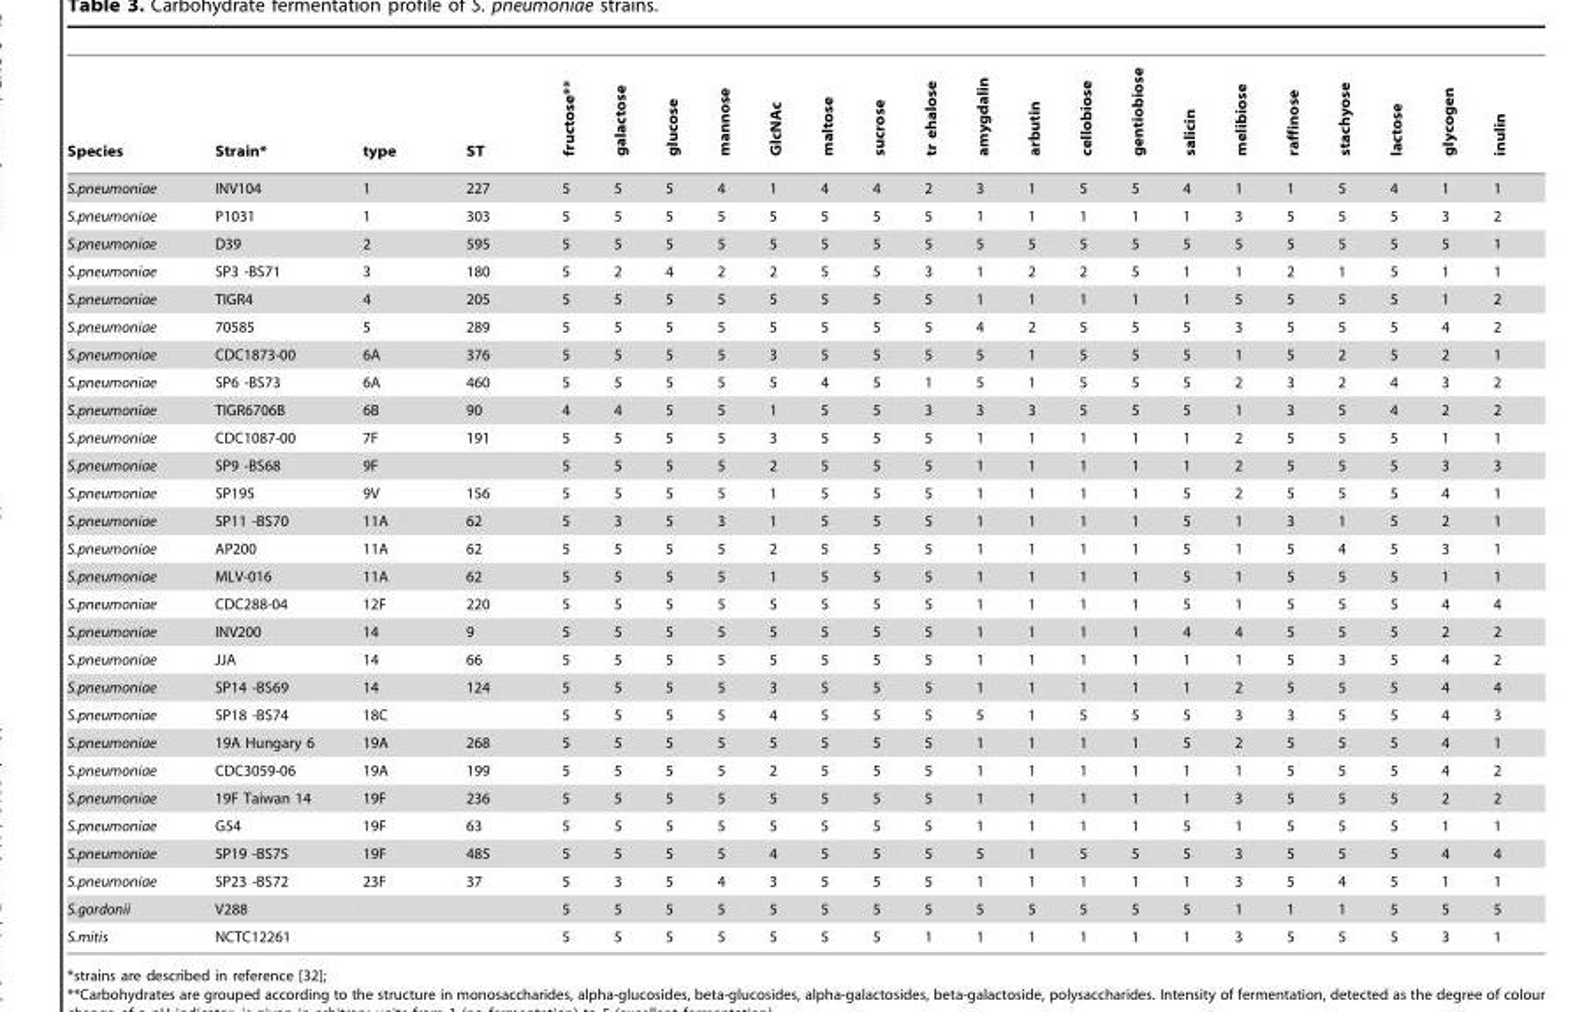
<table><thead><tr><td>Species</td><td>Strain*</td><td>type</td><td>ST</td><td>fructose**</td><td>galactose</td><td>glucose</td><td>mannose</td><td>GlcNAc</td><td>maltose</td><td>sucrose</td><td>tr ehalose</td><td>amygdalin</td><td>arbutin</td><td>cellobiose</td><td>gentiobiose</td><td>salicin</td><td>melibiose</td><td>raffinose</td><td>stachyose</td><td>lactose</td><td>glycogen</td><td>inulin</td></tr></thead><tbody><tr><td>S.pneumoniae</td><td>INV104</td><td>1</td><td>227</td><td>5</td><td>5</td><td>5</td><td>4</td><td>1</td><td>4</td><td>4</td><td>2</td><td>3</td><td>1</td><td>5</td><td>5</td><td>4</td><td>1</td><td>1</td><td>5</td><td>4</td><td>1</td><td>1</td></tr><tr><td>S.pneumoniae</td><td>P1031</td><td>1</td><td>303</td><td>5</td><td>5</td><td>5</td><td>5</td><td>5</td><td>5</td><td>5</td><td>5</td><td>1</td><td>1</td><td>1</td><td>1</td><td>1</td><td>3</td><td>5</td><td>5</td><td>5</td><td>3</td><td>2</td></tr><tr><td>S.pneumoniae</td><td>D39</td><td>2</td><td>595</td><td>5</td><td>5</td><td>5</td><td>5</td><td>5</td><td>5</td><td>5</td><td>5</td><td>5</td><td>5</td><td>5</td><td>5</td><td>5</td><td>5</td><td>5</td><td>5</td><td>5</td><td>5</td><td>1</td></tr><tr><td>S.pneumoniae</td><td>SP3 -BS71</td><td>3</td><td>180</td><td>5</td><td>2</td><td>4</td><td>2</td><td>2</td><td>5</td><td>5</td><td>3</td><td>1</td><td>2</td><td>2</td><td>5</td><td>1</td><td>1</td><td>2</td><td>1</td><td>5</td><td>1</td><td>1</td></tr><tr><td>S.pneumoniae</td><td>TIGR4</td><td>4</td><td>205</td><td>5</td><td>5</td><td>5</td><td>5</td><td>5</td><td>5</td><td>5</td><td>5</td><td>1</td><td>1</td><td>1</td><td>1</td><td>1</td><td>5</td><td>5</td><td>5</td><td>5</td><td>1</td><td>2</td></tr><tr><td>S.pneumoniae</td><td>70585</td><td>5</td><td>289</td><td>5</td><td>5</td><td>5</td><td>5</td><td>5</td><td>5</td><td>5</td><td>5</td><td>4</td><td>2</td><td>5</td><td>5</td><td>5</td><td>3</td><td>5</td><td>5</td><td>5</td><td>4</td><td>2</td></tr><tr><td>S.pneumoniae</td><td>CDC1873-00</td><td>6A</td><td>376</td><td>5</td><td>5</td><td>5</td><td>5</td><td>3</td><td>5</td><td>5</td><td>5</td><td>5</td><td>1</td><td>5</td><td>5</td><td>5</td><td>1</td><td>5</td><td>2</td><td>5</td><td>2</td><td>1</td></tr><tr><td>S.pneumoniae</td><td>SP6 -BS73</td><td>6A</td><td>460</td><td>5</td><td>5</td><td>5</td><td>5</td><td>5</td><td>4</td><td>5</td><td>1</td><td>5</td><td>1</td><td>5</td><td>5</td><td>5</td><td>2</td><td>3</td><td>2</td><td>4</td><td>3</td><td>2</td></tr><tr><td>S.pneumoniae</td><td>TIGR6706B</td><td>6B</td><td>90</td><td>4</td><td>4</td><td>5</td><td>5</td><td>1</td><td>5</td><td>5</td><td>3</td><td>3</td><td>3</td><td>5</td><td>5</td><td>5</td><td>1</td><td>3</td><td>5</td><td>4</td><td>2</td><td>2</td></tr><tr><td>S.pneumoniae</td><td>CDC1087-00</td><td>7F</td><td>191</td><td>5</td><td>5</td><td>5</td><td>5</td><td>3</td><td>5</td><td>5</td><td>5</td><td>1</td><td>1</td><td>1</td><td>1</td><td>1</td><td>2</td><td>5</td><td>5</td><td>5</td><td>1</td><td>1</td></tr><tr><td>S.pneumoniae</td><td>SP9 -BS68</td><td>9F</td><td></td><td>5</td><td>5</td><td>5</td><td>5</td><td>2</td><td>5</td><td>5</td><td>5</td><td>1</td><td>1</td><td>1</td><td>1</td><td>1</td><td>2</td><td>5</td><td>5</td><td>5</td><td>3</td><td>3</td></tr><tr><td>S.pneumoniae</td><td>SP195</td><td>9V</td><td>156</td><td>5</td><td>5</td><td>5</td><td>5</td><td>1</td><td>5</td><td>5</td><td>5</td><td>1</td><td>1</td><td>1</td><td>1</td><td>5</td><td>2</td><td>5</td><td>5</td><td>5</td><td>4</td><td>1</td></tr><tr><td>S.pneumoniae</td><td>SP11 -BS70</td><td>11A</td><td>62</td><td>5</td><td>3</td><td>5</td><td>3</td><td>1</td><td>5</td><td>5</td><td>5</td><td>1</td><td>1</td><td>1</td><td>1</td><td>5</td><td>1</td><td>3</td><td>1</td><td>5</td><td>2</td><td>1</td></tr><tr><td>S.pneumoniae</td><td>AP200</td><td>11A</td><td>62</td><td>5</td><td>5</td><td>5</td><td>5</td><td>2</td><td>5</td><td>5</td><td>5</td><td>1</td><td>1</td><td>1</td><td>1</td><td>5</td><td>1</td><td>5</td><td>4</td><td>5</td><td>3</td><td>1</td></tr><tr><td>S.pneumoniae</td><td>MLV-016</td><td>11A</td><td>62</td><td>5</td><td>5</td><td>5</td><td>5</td><td>1</td><td>5</td><td>5</td><td>5</td><td>1</td><td>1</td><td>1</td><td>1</td><td>5</td><td>1</td><td>5</td><td>5</td><td>5</td><td>1</td><td>1</td></tr><tr><td>S.pneumoniae</td><td>CDC288-04</td><td>12F</td><td>220</td><td>5</td><td>5</td><td>5</td><td>5</td><td>5</td><td>5</td><td>5</td><td>5</td><td>1</td><td>1</td><td>1</td><td>1</td><td>5</td><td>1</td><td>5</td><td>5</td><td>5</td><td>4</td><td>4</td></tr><tr><td>S.pneumoniae</td><td>INV200</td><td>14</td><td>9</td><td>5</td><td>5</td><td>5</td><td>5</td><td>5</td><td>5</td><td>5</td><td>5</td><td>1</td><td>1</td><td>1</td><td>1</td><td>4</td><td>4</td><td>5</td><td>5</td><td>5</td><td>2</td><td>2</td></tr><tr><td>S.pneumoniae</td><td>JJA</td><td>14</td><td>66</td><td>5</td><td>5</td><td>5</td><td>5</td><td>5</td><td>5</td><td>5</td><td>5</td><td>1</td><td>1</td><td>1</td><td>1</td><td>1</td><td>1</td><td>5</td><td>3</td><td>5</td><td>4</td><td>2</td></tr><tr><td>S.pneumoniae</td><td>SP14 -BS69</td><td>14</td><td>124</td><td>5</td><td>5</td><td>5</td><td>5</td><td>3</td><td>5</td><td>5</td><td>5</td><td>1</td><td>1</td><td>1</td><td>1</td><td>1</td><td>2</td><td>5</td><td>5</td><td>5</td><td>4</td><td>4</td></tr><tr><td>S.pneumoniae</td><td>SP18 -BS74</td><td>18C</td><td></td><td>5</td><td>5</td><td>5</td><td>5</td><td>4</td><td>5</td><td>5</td><td>5</td><td>5</td><td>1</td><td>5</td><td>5</td><td>5</td><td>3</td><td>3</td><td>5</td><td>5</td><td>4</td><td>3</td></tr><tr><td>S.pneumoniae</td><td>19A Hungary 6</td><td>19A</td><td>268</td><td>5</td><td>5</td><td>5</td><td>5</td><td>5</td><td>5</td><td>5</td><td>5</td><td>1</td><td>1</td><td>1</td><td>1</td><td>5</td><td>2</td><td>5</td><td>5</td><td>5</td><td>4</td><td>1</td></tr><tr><td>S.pneumoniae</td><td>CDC3059-06</td><td>19A</td><td>199</td><td>5</td><td>5</td><td>5</td><td>5</td><td>2</td><td>5</td><td>5</td><td>5</td><td>1</td><td>1</td><td>1</td><td>1</td><td>1</td><td>1</td><td>5</td><td>5</td><td>5</td><td>4</td><td>2</td></tr><tr><td>S.pneumoniae</td><td>19F Taiwan 14</td><td>19F</td><td>236</td><td>5</td><td>5</td><td>5</td><td>5</td><td>5</td><td>5</td><td>5</td><td>5</td><td>1</td><td>1</td><td>1</td><td>1</td><td>1</td><td>3</td><td>5</td><td>5</td><td>5</td><td>2</td><td>2</td></tr><tr><td>S.pneumoniae</td><td>G54</td><td>19F</td><td>63</td><td>5</td><td>5</td><td>5</td><td>5</td><td>5</td><td>5</td><td>5</td><td>5</td><td>1</td><td>1</td><td>1</td><td>1</td><td>5</td><td>1</td><td>5</td><td>5</td><td>5</td><td>1</td><td>1</td></tr><tr><td>S.pneumoniae</td><td>SP19 -BS75</td><td>19F</td><td>485</td><td>5</td><td>5</td><td>5</td><td>5</td><td>4</td><td>5</td><td>5</td><td>5</td><td>5</td><td>1</td><td>5</td><td>5</td><td>5</td><td>3</td><td>5</td><td>5</td><td>5</td><td>4</td><td>4</td></tr><tr><td>S.pneumoniae</td><td>SP23 -BS72</td><td>23F</td><td>37</td><td>5</td><td>3</td><td>5</td><td>4</td><td>3</td><td>5</td><td>5</td><td>5</td><td>1</td><td>1</td><td>1</td><td>1</td><td>1</td><td>3</td><td>5</td><td>4</td><td>5</td><td>1</td><td>1</td></tr><tr><td>S.gordonii</td><td>V288</td><td></td><td></td><td>5</td><td>5</td><td>5</td><td>5</td><td>5</td><td>5</td><td>5</td><td>5</td><td>5</td><td>5</td><td>5</td><td>5</td><td>5</td><td>1</td><td>1</td><td>1</td><td>5</td><td>5</td><td>5</td></tr><tr><td>S.mitis</td><td>NCTC12261</td><td></td><td></td><td>5</td><td>5</td><td>5</td><td>5</td><td>5</td><td>5</td><td>5</td><td>1</td><td>1</td><td>1</td><td>1</td><td>1</td><td>1</td><td>3</td><td>5</td><td>5</td><td>5</td><td>3</td><td>1</td></tr></tbody></table>